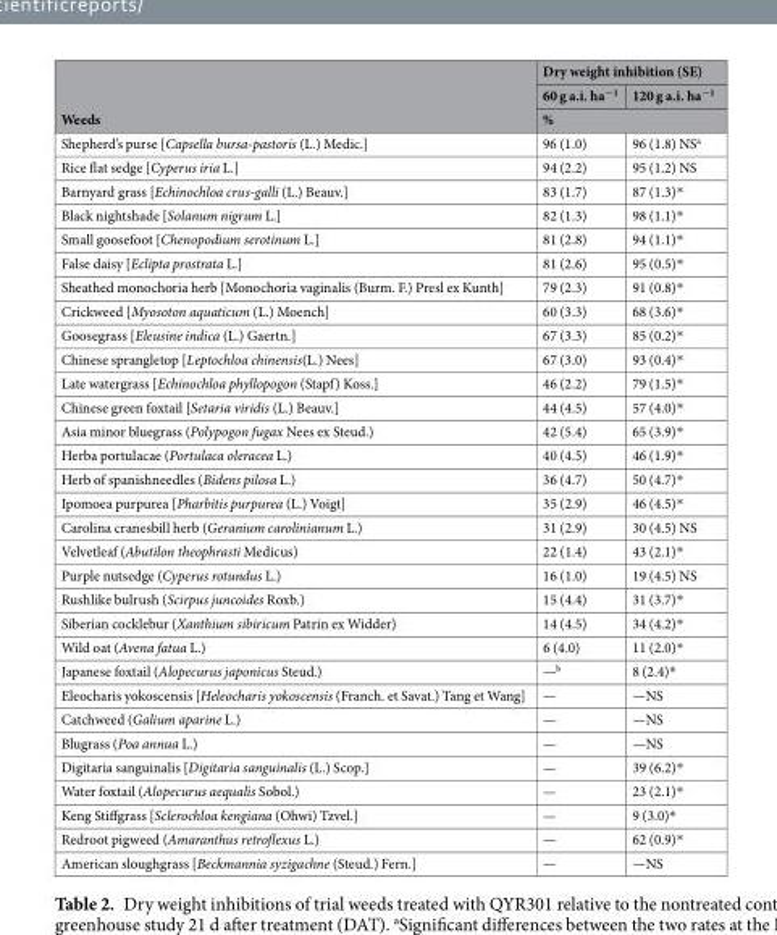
<table><thead><tr><td rowspan="3">Weeds</td><td colspan="2">Dry weight inhibition (SE)</td></tr><tr><td>60 g a.i. ha<sup>−1</sup></td><td>120 g a.i. ha<sup>−1</sup></td></tr><tr><td colspan="2">%</td></tr></thead><tbody><tr><td>Shepherd’s purse [Capsella bursa-pastoris (L.) Medic.]</td><td>96 (1.0)</td><td>96 (1.8) NS<sup>a</sup></td></tr><tr><td>Rice flat sedge [Cyperus iria L.]</td><td>94 (2.2)</td><td>95 (1.2) NS</td></tr><tr><td>Barnyard grass [Echinochloa crus-galli (L.) Beauv.]</td><td>83 (1.7)</td><td>87 (1.3)*</td></tr><tr><td>Black nightshade [Solanum nigrum L.]</td><td>82 (1.3)</td><td>98 (1.1)*</td></tr><tr><td>Small goosefoot [Chenopodium serotinum L.]</td><td>81 (2.8)</td><td>94 (1.1)*</td></tr><tr><td>False daisy [Eclipta prostrata L.]</td><td>81 (2.6)</td><td>95 (0.5)*</td></tr><tr><td>Sheathed monochoria herb [Monochoria vaginalis (Burm. F.) Presl ex Kunth]</td><td>79 (2.3)</td><td>91 (0.8)*</td></tr><tr><td>Crickweed [Myosoton aquaticum (L.) Moench]</td><td>60 (3.3)</td><td>68 (3.6)*</td></tr><tr><td>Goosegrass [Eleusine indica (L.) Gaertn.]</td><td>67 (3.3)</td><td>85 (0.2)*</td></tr><tr><td>Chinese sprangletop [Leptochloa chinensis(L.) Nees]</td><td>67 (3.0)</td><td>93 (0.4)*</td></tr><tr><td>Late watergrass [Echinochloa phyllopogon (Stapf) Koss.]</td><td>46 (2.2)</td><td>79 (1.5)*</td></tr><tr><td>Chinese green foxtail [Setaria viridis (L.) Beauv.]</td><td>44 (4.5)</td><td>57 (4.0)*</td></tr><tr><td>Asia minor bluegrass (Polypogon fugax Nees ex Steud.)</td><td>42 (5.4)</td><td>65 (3.9)*</td></tr><tr><td>Herba portulacae (Portulaca oleracea L.)</td><td>40 (4.5)</td><td>46 (1.9)*</td></tr><tr><td>Herb of spanishneedles (Bidens pilosa L.)</td><td>36 (4.7)</td><td>50 (4.7)*</td></tr><tr><td>Ipomoea purpurea [Pharbitis purpurea (L.) Voigt]</td><td>35 (2.9)</td><td>46 (4.5)*</td></tr><tr><td>Carolina cranesbill herb (Geranium carolinianum L.)</td><td>31 (2.9)</td><td>30 (4.5) NS</td></tr><tr><td>Velvetleaf (Abutilon theophrasti Medicus)</td><td>22 (1.4)</td><td>43 (2.1)*</td></tr><tr><td>Purple nutsedge (Cyperus rotundus L.)</td><td>16 (1.0)</td><td>19 (4.5) NS</td></tr><tr><td>Rushlike bulrush (Scirpus juncoides Roxb.)</td><td>15 (4.4)</td><td>31 (3.7)*</td></tr><tr><td>Siberian cocklebur (Xanthium sibiricum Patrin ex Widder)</td><td>14 (4.5)</td><td>34 (4.2)*</td></tr><tr><td>Wild oat (Avena fatua L.)</td><td>6 (4.0)</td><td>11 (2.0)*</td></tr><tr><td>Japanese foxtail (Alopecurus japonicus Steud.)</td><td>—<sup>b</sup></td><td>8 (2.4)*</td></tr><tr><td>Eleocharis yokoscensis [Heleocharis yokoscensis (Franch. et Savat.) Tang et Wang]</td><td>—</td><td>—NS</td></tr><tr><td>Catchweed (Galium aparine L.)</td><td>—</td><td>—NS</td></tr><tr><td>Blugrass (Poa annua L.)</td><td>—</td><td>—NS</td></tr><tr><td>Digitaria sanguinalis [Digitaria sanguinalis (L.) Scop.]</td><td>—</td><td>39 (6.2)*</td></tr><tr><td>Water foxtail (Alopecurus aequalis Sobol.)</td><td>—</td><td>23 (2.1)*</td></tr><tr><td>Keng Stiffgrass [Sclerochloa kengiana (Ohwi) Tzvel.]</td><td>—</td><td>9 (3.0)*</td></tr><tr><td>Redroot pigweed (Amaranthus retroflexus L.)</td><td>—</td><td>62 (0.9)*</td></tr><tr><td>American sloughgrass [Beckmannia syzigachne (Steud.) Fern.]</td><td>—</td><td>—NS</td></tr></tbody></table>